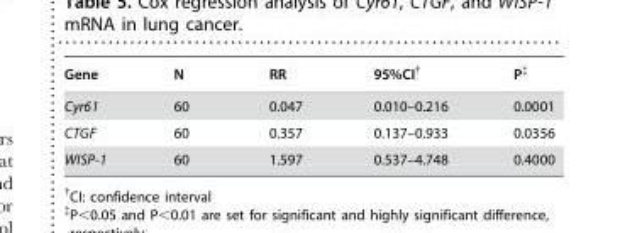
<table><thead><tr><td>Gene</td><td>N</td><td>RR</td><td>95%CI†</td><td>P‡</td></tr></thead><tbody><tr><td>Cyr61</td><td>60</td><td>0.047</td><td>0.010–0.216</td><td>0.0001</td></tr><tr><td>CTGF</td><td>60</td><td>0.357</td><td>0.137–0.933</td><td>0.0356</td></tr><tr><td>WISP-1</td><td>60</td><td>1.597</td><td>0.537–4.748</td><td>0.4000</td></tr></tbody></table>